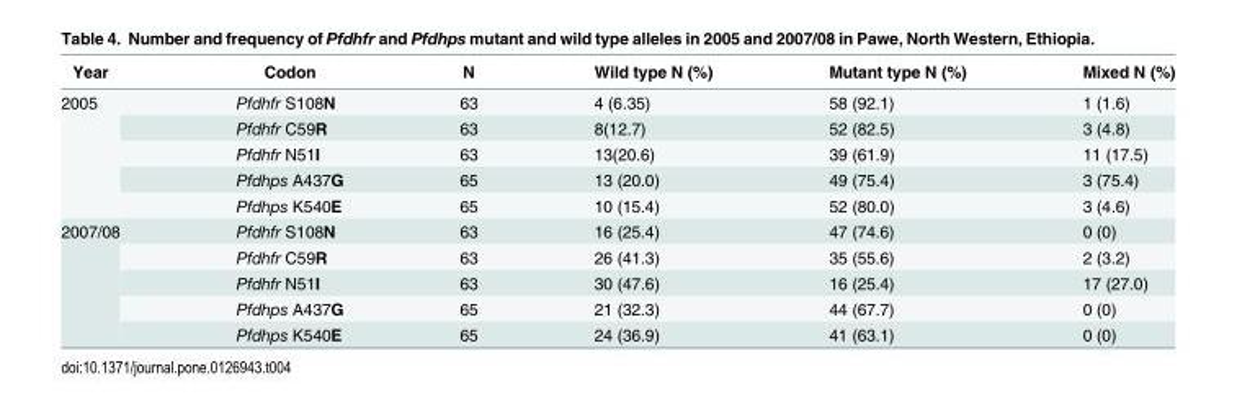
<table><thead><tr><td>Year</td><td>Codon</td><td>N</td><td>Wild type N (%)</td><td>Mutant type N (%)</td><td>Mixed N (%)</td></tr></thead><tbody><tr><td rowspan="5">2005</td><td>Pfdhfr S108N</td><td>63</td><td>4 (6.35)</td><td>58 (92.1)</td><td>1 (1.6)</td></tr><tr><td>Pfdhfr C59R</td><td>63</td><td>8(12.7)</td><td>52 (82.5)</td><td>3 (4.8)</td></tr><tr><td>Pfdhfr N51I</td><td>63</td><td>13(20.6)</td><td>39 (61.9)</td><td>11 (17.5)</td></tr><tr><td>Pfdhps A437G</td><td>65</td><td>13 (20.0)</td><td>49 (75.4)</td><td>3 (75.4)</td></tr><tr><td>Pfdhps K540E</td><td>65</td><td>10 (15.4)</td><td>52 (80.0)</td><td>3 (4.6)</td></tr><tr><td rowspan="5">2007/08</td><td>Pfdhfr S108N</td><td>63</td><td>16 (25.4)</td><td>47 (74.6)</td><td>0 (0)</td></tr><tr><td>Pfdhfr C59R</td><td>63</td><td>26 (41.3)</td><td>35 (55.6)</td><td>2 (3.2)</td></tr><tr><td>Pfdhfr N51I</td><td>63</td><td>30 (47.6)</td><td>16 (25.4)</td><td>17 (27.0)</td></tr><tr><td>Pfdhps A437G</td><td>65</td><td>21 (32.3)</td><td>44 (67.7)</td><td>0 (0)</td></tr><tr><td>Pfdhps K540E</td><td>65</td><td>24 (36.9)</td><td>41 (63.1)</td><td>0 (0)</td></tr></tbody></table>